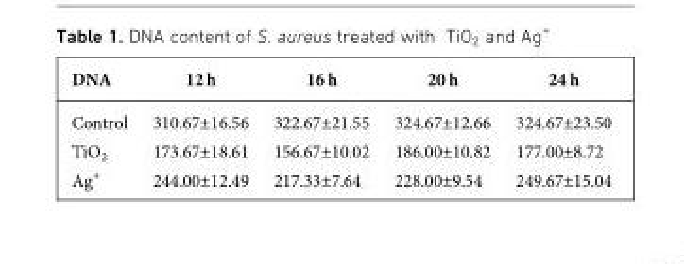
<table><thead><tr><td>DNA</td><td>12 h</td><td>16 h</td><td>20 h</td><td>24 h</td></tr></thead><tbody><tr><td>Control</td><td>310.67±16.56</td><td>322.67±21.55</td><td>324.67±12.66</td><td>324.67±23.50</td></tr><tr><td>TiO<sub>2</sub></td><td>173.67±18.61</td><td>156.67±10.02</td><td>186.00±10.82</td><td>177.00±8.72</td></tr><tr><td>Ag<sup>+</sup></td><td>244.00±12.49</td><td>217.33±7.64</td><td>228.00±9.54</td><td>249.67±15.04</td></tr></tbody></table>